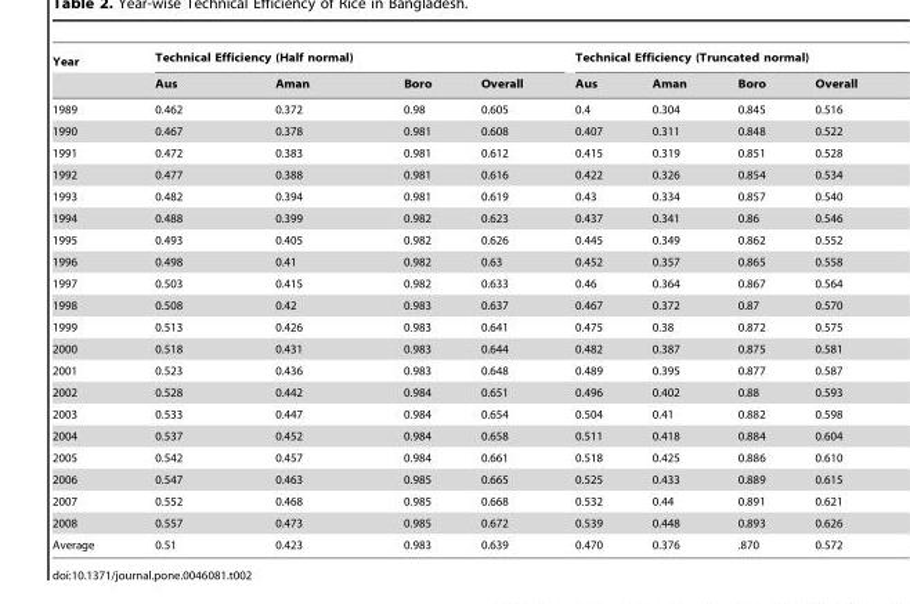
<table><thead><tr><td rowspan="2">Year</td><td colspan="4">Technical Efficiency (Half normal)</td><td colspan="4">Technical Efficiency (Truncated normal)</td></tr><tr><td>Aus</td><td>Aman</td><td>Boro</td><td>Overall</td><td>Aus</td><td>Aman</td><td>Boro</td><td>Overall</td></tr></thead><tbody><tr><td>1989</td><td>0.462</td><td>0.372</td><td>0.98</td><td>0.605</td><td>0.4</td><td>0.304</td><td>0.845</td><td>0.516</td></tr><tr><td>1990</td><td>0.467</td><td>0.378</td><td>0.981</td><td>0.608</td><td>0.407</td><td>0.311</td><td>0.848</td><td>0.522</td></tr><tr><td>1991</td><td>0.472</td><td>0.383</td><td>0.981</td><td>0.612</td><td>0.415</td><td>0.319</td><td>0.851</td><td>0.528</td></tr><tr><td>1992</td><td>0.477</td><td>0.388</td><td>0.981</td><td>0.616</td><td>0.422</td><td>0.326</td><td>0.854</td><td>0.534</td></tr><tr><td>1993</td><td>0.482</td><td>0.394</td><td>0.981</td><td>0.619</td><td>0.43</td><td>0.334</td><td>0.857</td><td>0.540</td></tr><tr><td>1994</td><td>0.488</td><td>0.399</td><td>0.982</td><td>0.623</td><td>0.437</td><td>0.341</td><td>0.86</td><td>0.546</td></tr><tr><td>1995</td><td>0.493</td><td>0.405</td><td>0.982</td><td>0.626</td><td>0.445</td><td>0.349</td><td>0.862</td><td>0.552</td></tr><tr><td>1996</td><td>0.498</td><td>0.41</td><td>0.982</td><td>0.63</td><td>0.452</td><td>0.357</td><td>0.865</td><td>0.558</td></tr><tr><td>1997</td><td>0.503</td><td>0.415</td><td>0.982</td><td>0.633</td><td>0.46</td><td>0.364</td><td>0.867</td><td>0.564</td></tr><tr><td>1998</td><td>0.508</td><td>0.42</td><td>0.983</td><td>0.637</td><td>0.467</td><td>0.372</td><td>0.87</td><td>0.570</td></tr><tr><td>1999</td><td>0.513</td><td>0.426</td><td>0.983</td><td>0.641</td><td>0.475</td><td>0.38</td><td>0.872</td><td>0.575</td></tr><tr><td>2000</td><td>0.518</td><td>0.431</td><td>0.983</td><td>0.644</td><td>0.482</td><td>0.387</td><td>0.875</td><td>0.581</td></tr><tr><td>2001</td><td>0.523</td><td>0.436</td><td>0.983</td><td>0.648</td><td>0.489</td><td>0.395</td><td>0.877</td><td>0.587</td></tr><tr><td>2002</td><td>0.528</td><td>0.442</td><td>0.984</td><td>0.651</td><td>0.496</td><td>0.402</td><td>0.88</td><td>0.593</td></tr><tr><td>2003</td><td>0.533</td><td>0.447</td><td>0.984</td><td>0.654</td><td>0.504</td><td>0.41</td><td>0.882</td><td>0.598</td></tr><tr><td>2004</td><td>0.537</td><td>0.452</td><td>0.984</td><td>0.658</td><td>0.511</td><td>0.418</td><td>0.884</td><td>0.604</td></tr><tr><td>2005</td><td>0.542</td><td>0.457</td><td>0.984</td><td>0.661</td><td>0.518</td><td>0.425</td><td>0.886</td><td>0.610</td></tr><tr><td>2006</td><td>0.547</td><td>0.463</td><td>0.985</td><td>0.665</td><td>0.525</td><td>0.433</td><td>0.889</td><td>0.615</td></tr><tr><td>2007</td><td>0.552</td><td>0.468</td><td>0.985</td><td>0.668</td><td>0.532</td><td>0.44</td><td>0.891</td><td>0.621</td></tr><tr><td>2008</td><td>0.557</td><td>0.473</td><td>0.985</td><td>0.672</td><td>0.539</td><td>0.448</td><td>0.893</td><td>0.626</td></tr><tr><td>Average</td><td>0.51</td><td>0.423</td><td>0.983</td><td>0.639</td><td>0.470</td><td>0.376</td><td>.870</td><td>0.572</td></tr></tbody></table>